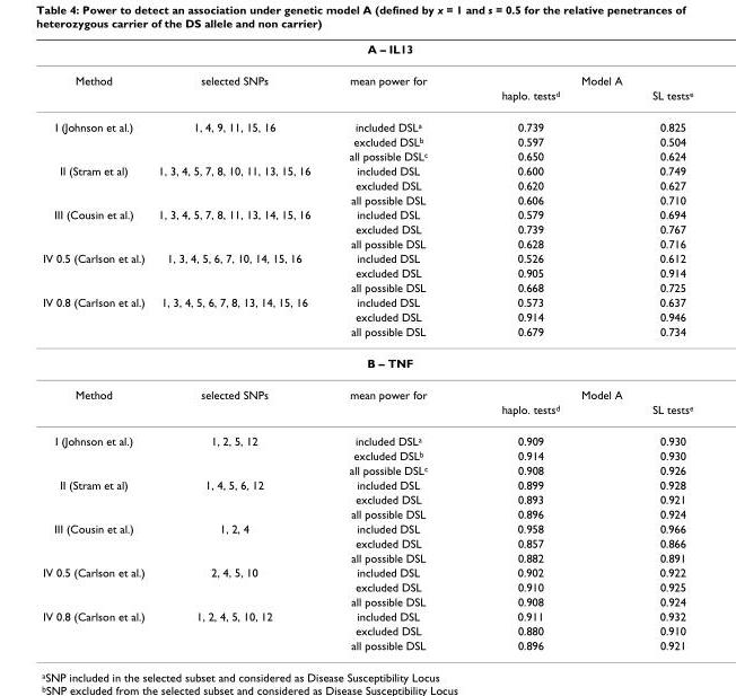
<table><thead><tr><td colspan="5">A – IL13</td></tr><tr><td rowspan="2">Method</td><td rowspan="2">selected SNPs</td><td rowspan="2">mean power for</td><td colspan="2">Model A</td></tr><tr><td>haplo. tests<sup>d</sup></td><td>SL tests<sup>e</sup></td></tr></thead><tbody><tr><td rowspan="3">I (Johnson et al.)</td><td>1, 4, 9, 11, 15, 16</td><td>included DSL<sup>a</sup></td><td>0.739</td><td>0.825</td></tr><tr><td></td><td>excluded DSL<sup>b</sup></td><td>0.597</td><td>0.504</td></tr><tr><td></td><td>all possible DSL<sup>c</sup></td><td>0.650</td><td>0.624</td></tr><tr><td rowspan="3">II (Stram et al)</td><td>1, 3, 4, 5, 7, 8, 10, 11, 13, 15, 16</td><td>included DSL</td><td>0.600</td><td>0.749</td></tr><tr><td></td><td>excluded DSL</td><td>0.620</td><td>0.627</td></tr><tr><td></td><td>all possible DSL</td><td>0.606</td><td>0.710</td></tr><tr><td rowspan="3">III (Cousin et al.)</td><td>1, 3, 4, 5, 7, 8, 11, 13, 14, 15, 16</td><td>included DSL</td><td>0.579</td><td>0.694</td></tr><tr><td></td><td>excluded DSL</td><td>0.739</td><td>0.767</td></tr><tr><td></td><td>all possible DSL</td><td>0.628</td><td>0.716</td></tr><tr><td rowspan="3">IV 0.5 (Carlson et al.)</td><td>1, 3, 4, 5, 6, 7, 10, 14, 15, 16</td><td>included DSL</td><td>0.526</td><td>0.612</td></tr><tr><td></td><td>excluded DSL</td><td>0.905</td><td>0.914</td></tr><tr><td></td><td>all possible DSL</td><td>0.668</td><td>0.725</td></tr><tr><td rowspan="3">IV 0.8 (Carlson et al.)</td><td>1, 3, 4, 5, 6, 7, 8, 13, 14, 15, 16</td><td>included DSL</td><td>0.573</td><td>0.637</td></tr><tr><td></td><td>excluded DSL</td><td>0.914</td><td>0.946</td></tr><tr><td></td><td>all possible DSL</td><td>0.679</td><td>0.734</td></tr><tr><td colspan="5">B – TNF</td></tr><tr><td rowspan="2">Method</td><td>selected SNPs</td><td>mean power for</td><td colspan="2">Model A</td></tr><tr><td></td><td></td><td>haplo. tests<sup>d</sup></td><td>SL tests<sup>e</sup></td></tr><tr><td rowspan="3">I (Johnson et al.)</td><td>1, 2, 5, 12</td><td>included DSL<sup>a</sup></td><td>0.909</td><td>0.930</td></tr><tr><td></td><td>excluded DSL<sup>b</sup></td><td>0.914</td><td>0.930</td></tr><tr><td></td><td>all possible DSL<sup>c</sup></td><td>0.908</td><td>0.926</td></tr><tr><td rowspan="3">II (Stram et al)</td><td>1, 4, 5, 6, 12</td><td>included DSL</td><td>0.899</td><td>0.928</td></tr><tr><td></td><td>excluded DSL</td><td>0.893</td><td>0.921</td></tr><tr><td></td><td>all possible DSL</td><td>0.896</td><td>0.924</td></tr><tr><td rowspan="3">III (Cousin et al.)</td><td>1, 2, 4</td><td>included DSL</td><td>0.958</td><td>0.966</td></tr><tr><td></td><td>excluded DSL</td><td>0.857</td><td>0.866</td></tr><tr><td></td><td>all possible DSL</td><td>0.882</td><td>0.891</td></tr><tr><td rowspan="3">IV 0.5 (Carlson et al.)</td><td>2, 4, 5, 10</td><td>included DSL</td><td>0.902</td><td>0.922</td></tr><tr><td></td><td>excluded DSL</td><td>0.910</td><td>0.925</td></tr><tr><td></td><td>all possible DSL</td><td>0.908</td><td>0.924</td></tr><tr><td rowspan="3">IV 0.8 (Carlson et al.)</td><td>1, 2, 4, 5, 10, 12</td><td>included DSL</td><td>0.911</td><td>0.932</td></tr><tr><td></td><td>excluded DSL</td><td>0.880</td><td>0.910</td></tr><tr><td></td><td>all possible DSL</td><td>0.896</td><td>0.921</td></tr></tbody></table>